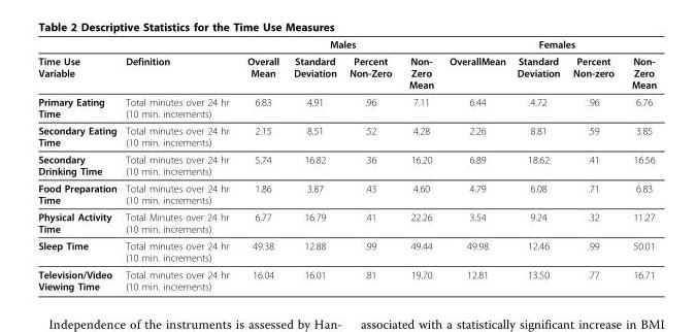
<table><thead><tr><td rowspan="2">Time Use Variable</td><td rowspan="2">Definition</td><td colspan="4">Males</td><td colspan="4">Females</td></tr><tr><td>Overall Mean</td><td>Standard Deviation</td><td>Percent Non-Zero</td><td>Non- Zero Mean</td><td>OverallMean</td><td>Standard Deviation</td><td>Percent Non-zero</td><td>Non- Zero Mean</td></tr></thead><tbody><tr><td>Primary Eating Time</td><td>Total minutes over 24 hr (10 min. increments)</td><td>6.83</td><td>4.91</td><td>.96</td><td>7.11</td><td>6.44</td><td>4.72</td><td>.96</td><td>6.76</td></tr><tr><td>Secondary Eating Time</td><td>Total minutes over 24 hr (10 min. increments)</td><td>2.15</td><td>8.51</td><td>.52</td><td>4.28</td><td>2.26</td><td>8.81</td><td>.59</td><td>3.85</td></tr><tr><td>Secondary Drinking Time</td><td>Total minutes over 24 hr (10 min. increments)</td><td>5.74</td><td>16.82</td><td>.36</td><td>16.20</td><td>6.89</td><td>18.62</td><td>.41</td><td>16.56</td></tr><tr><td>Food Preparation Time</td><td>Total minutes over 24 hr (10 min. increments)</td><td>1.86</td><td>3.87</td><td>.43</td><td>4.60</td><td>4.79</td><td>6.08</td><td>.71</td><td>6.83</td></tr><tr><td>Physical Activity Time</td><td>Total Minutes over 24 hr (10 min. increments)</td><td>6.77</td><td>16.79</td><td>.41</td><td>22.26</td><td>3.54</td><td>9.24</td><td>.32</td><td>11.27</td></tr><tr><td>Sleep Time</td><td>Total minutes over 24 hr (10 min. increments)</td><td>49.38</td><td>12.88</td><td>.99</td><td>49.44</td><td>49.98</td><td>12.46</td><td>.99</td><td>50.01</td></tr><tr><td>Television/Video Viewing Time</td><td>Total minutes over 24 hr (10 min. increments)</td><td>16.04</td><td>16.01</td><td>.81</td><td>19.70</td><td>12.81</td><td>13.50</td><td>.77</td><td>16.71</td></tr></tbody></table>